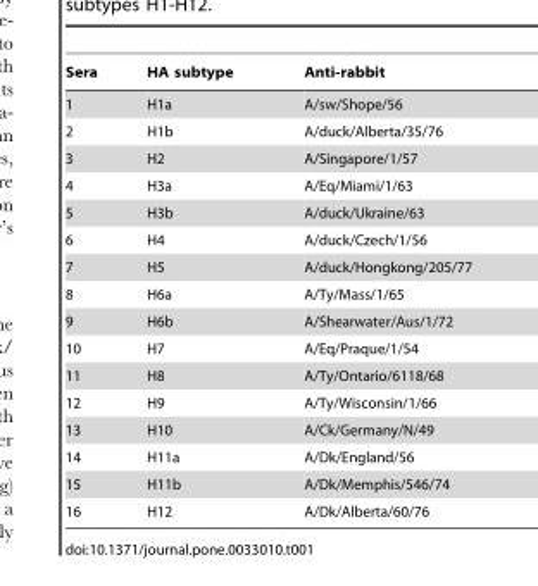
<table><thead><tr><td>Sera</td><td>HA subtype</td><td>Anti-rabbit</td></tr></thead><tbody><tr><td>1</td><td>H1a</td><td>A/sw/Shope/56</td></tr><tr><td>2</td><td>H1b</td><td>A/duck/Alberta/35/76</td></tr><tr><td>3</td><td>H2</td><td>A/Singapore/1/57</td></tr><tr><td>4</td><td>H3a</td><td>A/Eq/Miami/1/63</td></tr><tr><td>5</td><td>H3b</td><td>A/duck/Ukraine/63</td></tr><tr><td>6</td><td>H4</td><td>A/duck/Czech/1/56</td></tr><tr><td>7</td><td>H5</td><td>A/duck/Hongkong/205/77</td></tr><tr><td>8</td><td>H6a</td><td>A/Ty/Mass/1/65</td></tr><tr><td>9</td><td>H6b</td><td>A/Shearwater/Aus/1/72</td></tr><tr><td>10</td><td>H7</td><td>A/Eq/Praque/1/54</td></tr><tr><td>11</td><td>H8</td><td>A/Ty/Ontario/6118/68</td></tr><tr><td>12</td><td>H9</td><td>A/Ty/Wisconsin/1/66</td></tr><tr><td>13</td><td>H10</td><td>A/Ck/Germany/N/49</td></tr><tr><td>14</td><td>H11a</td><td>A/Dk/England/56</td></tr><tr><td>15</td><td>H11b</td><td>A/Dk/Memphis/546/74</td></tr><tr><td>16</td><td>H12</td><td>A/Dk/Alberta/60/76</td></tr></tbody></table>